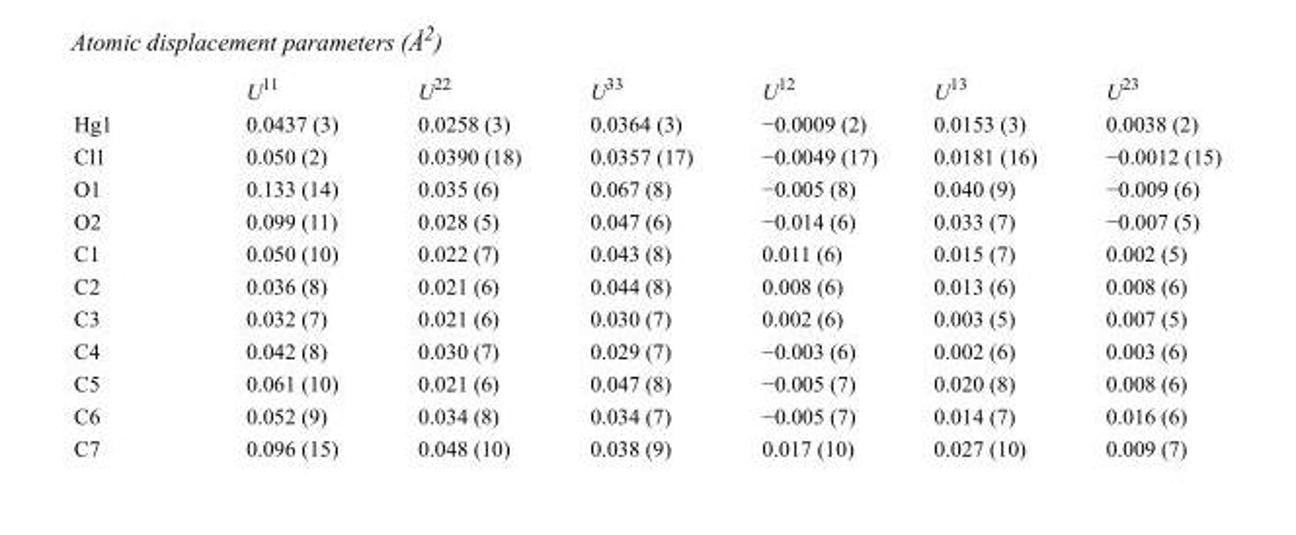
<table><thead><tr><td></td><td>U<sup>11</sup></td><td>U<sup>22</sup></td><td>U<sup>33</sup></td><td>U<sup>12</sup></td><td>U<sup>13</sup></td><td>U<sup>23</sup></td></tr></thead><tbody><tr><td>Hg1</td><td>0.0437 (3)</td><td>0.0258 (3)</td><td>0.0364 (3)</td><td>−0.0009 (2)</td><td>0.0153 (3)</td><td>0.0038 (2)</td></tr><tr><td>Cl1</td><td>0.050 (2)</td><td>0.0390 (18)</td><td>0.0357 (17)</td><td>−0.0049 (17)</td><td>0.0181 (16)</td><td>−0.0012 (15)</td></tr><tr><td>O1</td><td>0.133 (14)</td><td>0.035 (6)</td><td>0.067 (8)</td><td>−0.005 (8)</td><td>0.040 (9)</td><td>−0.009 (6)</td></tr><tr><td>O2</td><td>0.099 (11)</td><td>0.028 (5)</td><td>0.047 (6)</td><td>−0.014 (6)</td><td>0.033 (7)</td><td>−0.007 (5)</td></tr><tr><td>C1</td><td>0.050 (10)</td><td>0.022 (7)</td><td>0.043 (8)</td><td>0.011 (6)</td><td>0.015 (7)</td><td>0.002 (5)</td></tr><tr><td>C2</td><td>0.036 (8)</td><td>0.021 (6)</td><td>0.044 (8)</td><td>0.008 (6)</td><td>0.013 (6)</td><td>0.008 (6)</td></tr><tr><td>C3</td><td>0.032 (7)</td><td>0.021 (6)</td><td>0.030 (7)</td><td>0.002 (6)</td><td>0.003 (5)</td><td>0.007 (5)</td></tr><tr><td>C4</td><td>0.042 (8)</td><td>0.030 (7)</td><td>0.029 (7)</td><td>−0.003 (6)</td><td>0.002 (6)</td><td>0.003 (6)</td></tr><tr><td>C5</td><td>0.061 (10)</td><td>0.021 (6)</td><td>0.047 (8)</td><td>−0.005 (7)</td><td>0.020 (8)</td><td>0.008 (6)</td></tr><tr><td>C6</td><td>0.052 (9)</td><td>0.034 (8)</td><td>0.034 (7)</td><td>−0.005 (7)</td><td>0.014 (7)</td><td>0.016 (6)</td></tr><tr><td>C7</td><td>0.096 (15)</td><td>0.048 (10)</td><td>0.038 (9)</td><td>0.017 (10)</td><td>0.027 (10)</td><td>0.009 (7)</td></tr></tbody></table>